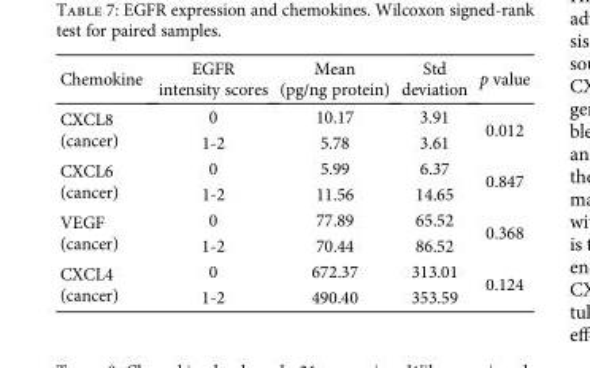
<table><thead><tr><td>Chemokine</td><td>EGFR intensity scores</td><td>Mean (pg/ng protein)</td><td>Std deviation</td><td>p value</td></tr></thead><tbody><tr><td rowspan="2">CXCL8 (cancer)</td><td>0</td><td>10.17</td><td>3.91</td><td rowspan="2">0.012</td></tr><tr><td>1-2</td><td>5.78</td><td>3.61</td></tr><tr><td rowspan="2">CXCL6 (cancer)</td><td>0</td><td>5.99</td><td>6.37</td><td rowspan="2">0.847</td></tr><tr><td>1-2</td><td>11.56</td><td>14.65</td></tr><tr><td rowspan="2">VEGF (cancer)</td><td>0</td><td>77.89</td><td>65.52</td><td rowspan="2">0.368</td></tr><tr><td>1-2</td><td>70.44</td><td>86.52</td></tr><tr><td rowspan="2">CXCL4 (cancer)</td><td>0</td><td>672.37</td><td>313.01</td><td rowspan="2">0.124</td></tr><tr><td>1-2</td><td>490.40</td><td>353.59</td></tr></tbody></table>